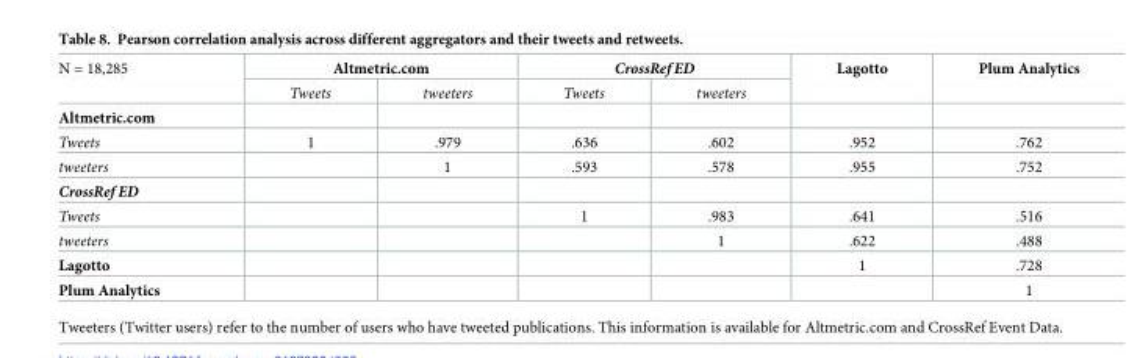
<table><tbody><tr><td rowspan="2">N = 18,285</td><td colspan="2">Altmetric.com</td><td colspan="2">CrossRef ED</td><td rowspan="2">Lagotto</td><td rowspan="2">Plum Analytics</td></tr><tr><td>Tweets</td><td>tweeters</td><td>Tweets</td><td>tweeters</td></tr><tr><td colspan="7">Altmetric.com</td></tr><tr><td>Tweets</td><td>1</td><td>.979</td><td>.636</td><td>.602</td><td>.952</td><td>.762</td></tr><tr><td>tweeters</td><td></td><td>1</td><td>.593</td><td>.578</td><td>.955</td><td>.752</td></tr><tr><td colspan="7">CrossRef ED</td></tr><tr><td>Tweets</td><td></td><td></td><td>1</td><td>.983</td><td>.641</td><td>.516</td></tr><tr><td>tweeters</td><td></td><td></td><td></td><td>1</td><td>.622</td><td>.488</td></tr><tr><td>Lagotto</td><td></td><td></td><td></td><td></td><td>1</td><td>.728</td></tr><tr><td>Plum Analytics</td><td></td><td></td><td></td><td></td><td></td><td>1</td></tr></tbody></table>